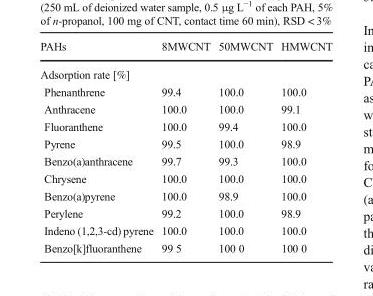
<table><thead><tr><td>PAHs</td><td>8MWCNT</td><td>50MWCNT</td><td>HMWCNT</td></tr></thead><tbody><tr><td colspan="4">Adsorption rate [%]</td></tr><tr><td>Phenanthrene</td><td>99.4</td><td>100.0</td><td>100.0</td></tr><tr><td>Anthracene</td><td>100.0</td><td>100.0</td><td>99.1</td></tr><tr><td>Fluoranthene</td><td>100.0</td><td>99.4</td><td>100.0</td></tr><tr><td>Pyrene</td><td>99.5</td><td>100.0</td><td>98.9</td></tr><tr><td>Benzo(a)anthracene</td><td>99.7</td><td>99.3</td><td>100.0</td></tr><tr><td>Chrysene</td><td>100.0</td><td>100.0</td><td>100.0</td></tr><tr><td>Benzo(a)pyrene</td><td>100.0</td><td>98.9</td><td>100.0</td></tr><tr><td>Perylene</td><td>99.2</td><td>100.0</td><td>98.9</td></tr><tr><td>Indeno (1,2,3-cd) pyrene</td><td>100.0</td><td>100.0</td><td>100.0</td></tr><tr><td>Benzo[k]fluoranthene</td><td>99 5</td><td>100 0</td><td>100 0</td></tr></tbody></table>